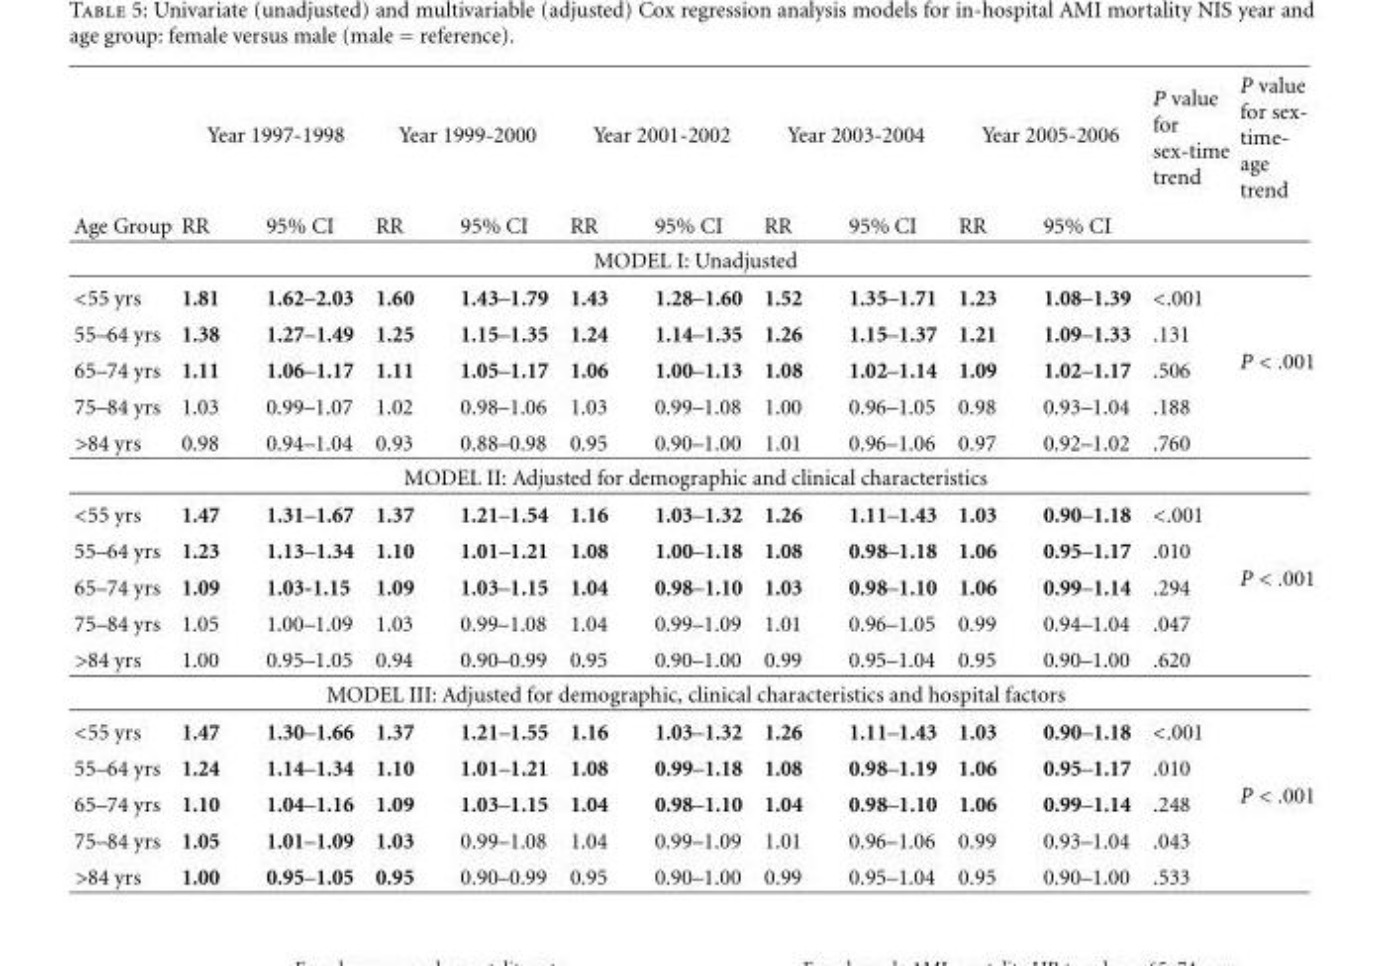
<table><thead><tr><td rowspan="2">Age Group</td><td colspan="2">Year 1997-1998</td><td colspan="2">Year 1999-2000</td><td colspan="2">Year 2001-2002</td><td colspan="2">Year 2003-2004</td><td colspan="2">Year 2005-2006</td><td rowspan="2">P value for sex-time trend</td><td rowspan="2">P value for sex- time- age trend</td></tr><tr><td>RR</td><td>95% CI</td><td>RR</td><td>95% CI</td><td>RR</td><td>95% CI</td><td>RR</td><td>95% CI</td><td>RR</td><td>95% CI</td></tr></thead><tbody><tr><td colspan="13">MODEL I: Unadjusted</td></tr><tr><td>&lt;55 yrs</td><td>1.81</td><td>1.62–2.03</td><td>1.60</td><td>1.43–1.79</td><td>1.43</td><td>1.28–1.60</td><td>1.52</td><td>1.35–1.71</td><td>1.23</td><td>1.08–1.39</td><td>&lt;.001</td><td rowspan="5">P &lt; .001</td></tr><tr><td>55–64 yrs</td><td>1.38</td><td>1.27–1.49</td><td>1.25</td><td>1.15–1.35</td><td>1.24</td><td>1.14–1.35</td><td>1.26</td><td>1.15–1.37</td><td>1.21</td><td>1.09–1.33</td><td>.131</td></tr><tr><td>65–74 yrs</td><td>1.11</td><td>1.06–1.17</td><td>1.11</td><td>1.05–1.17</td><td>1.06</td><td>1.00–1.13</td><td>1.08</td><td>1.02–1.14</td><td>1.09</td><td>1.02–1.17</td><td>.506</td></tr><tr><td>75–84 yrs</td><td>1.03</td><td>0.99–1.07</td><td>1.02</td><td>0.98–1.06</td><td>1.03</td><td>0.99–1.08</td><td>1.00</td><td>0.96–1.05</td><td>0.98</td><td>0.93–1.04</td><td>.188</td></tr><tr><td>&gt;84 yrs</td><td>0.98</td><td>0.94–1.04</td><td>0.93</td><td>0.88–0.98</td><td>0.95</td><td>0.90–1.00</td><td>1.01</td><td>0.96–1.06</td><td>0.97</td><td>0.92–1.02</td><td>.760</td></tr><tr><td colspan="13">MODEL II: Adjusted for demographic and clinical characteristics</td></tr><tr><td>&lt;55 yrs</td><td>1.47</td><td>1.31–1.67</td><td>1.37</td><td>1.21–1.54</td><td>1.16</td><td>1.03–1.32</td><td>1.26</td><td>1.11–1.43</td><td>1.03</td><td>0.90–1.18</td><td>&lt;.001</td><td rowspan="5">P &lt; .001</td></tr><tr><td>55–64 yrs</td><td>1.23</td><td>1.13–1.34</td><td>1.10</td><td>1.01–1.21</td><td>1.08</td><td>1.00–1.18</td><td>1.08</td><td>0.98–1.18</td><td>1.06</td><td>0.95–1.17</td><td>.010</td></tr><tr><td>65–74 yrs</td><td>1.09</td><td>1.03-1.15</td><td>1.09</td><td>1.03–1.15</td><td>1.04</td><td>0.98–1.10</td><td>1.03</td><td>0.98–1.10</td><td>1.06</td><td>0.99–1.14</td><td>.294</td></tr><tr><td>75–84 yrs</td><td>1.05</td><td>1.00–1.09</td><td>1.03</td><td>0.99–1.08</td><td>1.04</td><td>0.99–1.09</td><td>1.01</td><td>0.96–1.05</td><td>0.99</td><td>0.94–1.04</td><td>.047</td></tr><tr><td>&gt;84 yrs</td><td>1.00</td><td>0.95–1.05</td><td>0.94</td><td>0.90–0.99</td><td>0.95</td><td>0.90–1.00</td><td>0.99</td><td>0.95–1.04</td><td>0.95</td><td>0.90–1.00</td><td>.620</td></tr><tr><td colspan="13">MODEL III: Adjusted for demographic, clinical characteristics and hospital factors</td></tr><tr><td>&lt;55 yrs</td><td>1.47</td><td>1.30–1.66</td><td>1.37</td><td>1.21–1.55</td><td>1.16</td><td>1.03–1.32</td><td>1.26</td><td>1.11–1.43</td><td>1.03</td><td>0.90–1.18</td><td>&lt;.001</td><td rowspan="5">P &lt; .001</td></tr><tr><td>55–64 yrs</td><td>1.24</td><td>1.14–1.34</td><td>1.10</td><td>1.01–1.21</td><td>1.08</td><td>0.99–1.18</td><td>1.08</td><td>0.98–1.19</td><td>1.06</td><td>0.95–1.17</td><td>.010</td></tr><tr><td>65–74 yrs</td><td>1.10</td><td>1.04–1.16</td><td>1.09</td><td>1.03–1.15</td><td>1.04</td><td>0.98–1.10</td><td>1.04</td><td>0.98–1.10</td><td>1.06</td><td>0.99–1.14</td><td>.248</td></tr><tr><td>75–84 yrs</td><td>1.05</td><td>1.01–1.09</td><td>1.03</td><td>0.99–1.08</td><td>1.04</td><td>0.99–1.09</td><td>1.01</td><td>0.96–1.06</td><td>0.99</td><td>0.93–1.04</td><td>.043</td></tr><tr><td>&gt;84 yrs</td><td>1.00</td><td>0.95–1.05</td><td>0.95</td><td>0.90–0.99</td><td>0.95</td><td>0.90–1.00</td><td>0.99</td><td>0.95–1.04</td><td>0.95</td><td>0.90–1.00</td><td>.533</td></tr></tbody></table>